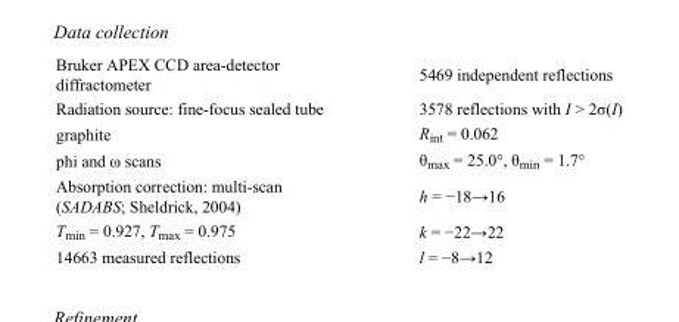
<table><tbody><tr><td>Bruker APEX CCD area-detector diffractometer</td><td>5469 independent reflections</td></tr><tr><td>Radiation source: fine-focus sealed tube</td><td>3578 reflections with I &gt; 2σ(I)</td></tr><tr><td>graphite</td><td>R<sub>int</sub> = 0.062</td></tr><tr><td>phi and ω scans</td><td>θ<sub>max</sub> = 25.0°, θ<sub>min</sub> = 1.7°</td></tr><tr><td>Absorption correction: multi-scan (SADABS; Sheldrick, 2004)</td><td>h = −18→16</td></tr><tr><td>T<sub>min</sub> = 0.927, T<sub>max</sub> = 0.975</td><td>k = −22→22</td></tr><tr><td>14663 measured reflections</td><td>l = −8→12</td></tr></tbody></table>